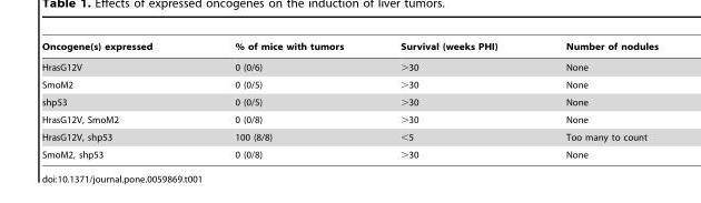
<table><thead><tr><td>Oncogene(s) expressed</td><td>% of mice with tumors</td><td>Survival (weeks PHI)</td><td>Number of nodules</td></tr></thead><tbody><tr><td>HrasG12V</td><td>0 (0/6)</td><td>&gt;30</td><td>None</td></tr><tr><td>SmoM2</td><td>0 (0/5)</td><td>&gt;30</td><td>None</td></tr><tr><td>shp53</td><td>0 (0/5)</td><td>&gt;30</td><td>None</td></tr><tr><td>HrasG12V, SmoM2</td><td>0 (0/8)</td><td>&gt;30</td><td>None</td></tr><tr><td>HrasG12V, shp53</td><td>100 (8/8)</td><td>&lt;5</td><td>Too many to count</td></tr><tr><td>SmoM2, shp53</td><td>0 (0/8)</td><td>&gt;30</td><td>None</td></tr></tbody></table>